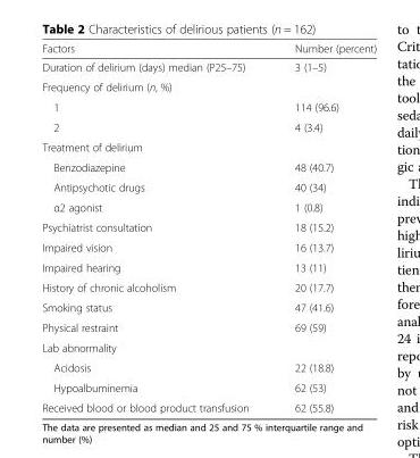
<table><thead><tr><td>Factors</td><td>Number (percent)</td></tr></thead><tbody><tr><td>Duration of delirium (days) median (P25–75)</td><td>3 (1–5)</td></tr><tr><td colspan="2">Frequency of delirium (n, %)</td></tr><tr><td>1</td><td>114 (96.6)</td></tr><tr><td>2</td><td>4 (3.4)</td></tr><tr><td colspan="2">Treatment of delirium</td></tr><tr><td>Benzodiazepine</td><td>48 (40.7)</td></tr><tr><td>Antipsychotic drugs</td><td>40 (34)</td></tr><tr><td>α2 agonist</td><td>1 (0.8)</td></tr><tr><td>Psychiatrist consultation</td><td>18 (15.2)</td></tr><tr><td>Impaired vision</td><td>16 (13.7)</td></tr><tr><td>Impaired hearing</td><td>13 (11)</td></tr><tr><td>History of chronic alcoholism</td><td>20 (17.7)</td></tr><tr><td>Smoking status</td><td>47 (41.6)</td></tr><tr><td>Physical restraint</td><td>69 (59)</td></tr><tr><td colspan="2">Lab abnormality</td></tr><tr><td>Acidosis</td><td>22 (18.8)</td></tr><tr><td>Hypoalbuminemia</td><td>62 (53)</td></tr><tr><td>Received blood or blood product transfusion</td><td>62 (55.8)</td></tr></tbody></table>